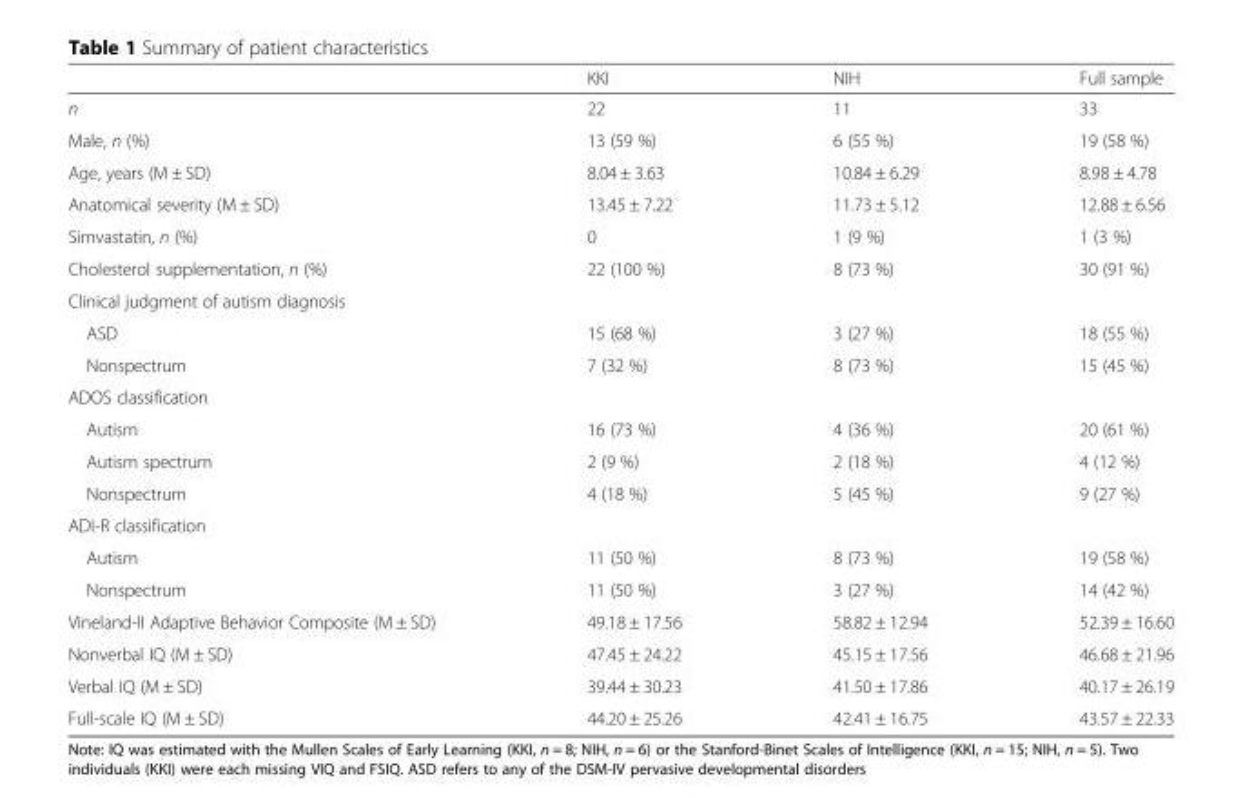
<table><thead><tr><td></td><td>KKI</td><td>NIH</td><td>Full sample</td></tr></thead><tbody><tr><td>n</td><td>22</td><td>11</td><td>33</td></tr><tr><td>Male, n (%)</td><td>13 (59 %)</td><td>6 (55 %)</td><td>19 (58 %)</td></tr><tr><td>Age, years (M ± SD)</td><td>8.04 ± 3.63</td><td>10.84 ± 6.29</td><td>8.98 ± 4.78</td></tr><tr><td>Anatomical severity (M ± SD)</td><td>13.45 ± 7.22</td><td>11.73 ± 5.12</td><td>12.88 ± 6.56</td></tr><tr><td>Simvastatin, n (%)</td><td>0</td><td>1 (9 %)</td><td>1 (3 %)</td></tr><tr><td>Cholesterol supplementation, n (%)</td><td>22 (100 %)</td><td>8 (73 %)</td><td>30 (91 %)</td></tr><tr><td colspan="4">Clinical judgment of autism diagnosis</td></tr><tr><td>ASD</td><td>15 (68 %)</td><td>3 (27 %)</td><td>18 (55 %)</td></tr><tr><td>Nonspectrum</td><td>7 (32 %)</td><td>8 (73 %)</td><td>15 (45 %)</td></tr><tr><td colspan="4">ADOS classification</td></tr><tr><td>Autism</td><td>16 (73 %)</td><td>4 (36 %)</td><td>20 (61 %)</td></tr><tr><td>Autism spectrum</td><td>2 (9 %)</td><td>2 (18 %)</td><td>4 (12 %)</td></tr><tr><td>Nonspectrum</td><td>4 (18 %)</td><td>5 (45 %)</td><td>9 (27 %)</td></tr><tr><td colspan="4">ADI-R classification</td></tr><tr><td>Autism</td><td>11 (50 %)</td><td>8 (73 %)</td><td>19 (58 %)</td></tr><tr><td>Nonspectrum</td><td>11 (50 %)</td><td>3 (27 %)</td><td>14 (42 %)</td></tr><tr><td>Vineland-II Adaptive Behavior Composite (M ± SD)</td><td>49.18 ± 17.56</td><td>58.82 ± 12.94</td><td>52.39 ± 16.60</td></tr><tr><td>Nonverbal IQ (M ± SD)</td><td>47.45 ± 24.22</td><td>45.15 ± 17.56</td><td>46.68 ± 21.96</td></tr><tr><td>Verbal IQ (M ± SD)</td><td>39.44 ± 30.23</td><td>41.50 ± 17.86</td><td>40.17 ± 26.19</td></tr><tr><td>Full-scale IQ (M ± SD)</td><td>44.20 ± 25.26</td><td>42.41 ± 16.75</td><td>43.57 ± 22.33</td></tr></tbody></table>